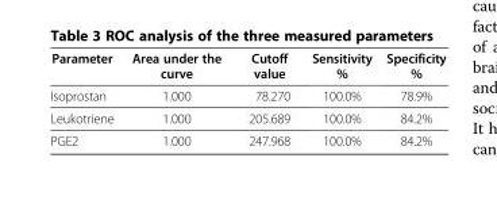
<table><thead><tr><td>Parameter</td><td>Area under the curve</td><td>Cutoff value</td><td>Sensitivity %</td><td>Specificity %</td></tr></thead><tbody><tr><td>Isoprostan</td><td>1.000</td><td>78.270</td><td>100.0%</td><td>78.9%</td></tr><tr><td>Leukotriene</td><td>1.000</td><td>205.689</td><td>100.0%</td><td>84.2%</td></tr><tr><td>PGE2</td><td>1.000</td><td>247.968</td><td>100.0%</td><td>84.2%</td></tr></tbody></table>